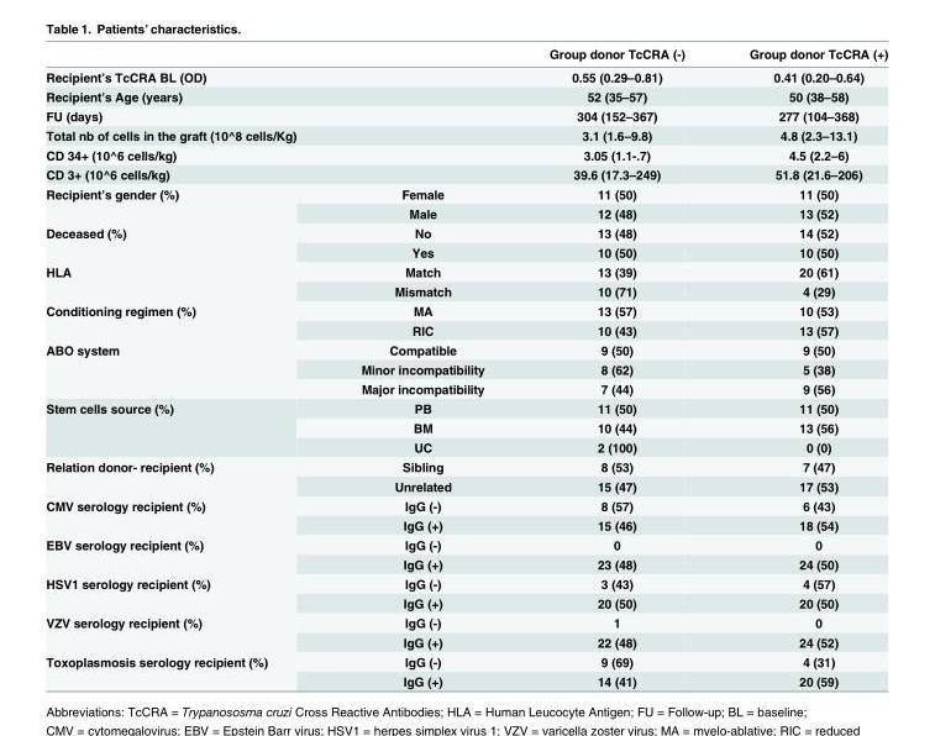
<table><thead><tr><td></td><td></td><td>Group donor TcCRA (-)</td><td>Group donor TcCRA (+)</td></tr></thead><tbody><tr><td>Recipient’s TcCRA BL (OD)</td><td></td><td>0.55 (0.29–0.81)</td><td>0.41 (0.20–0.64)</td></tr><tr><td>Recipient’s Age (years)</td><td></td><td>52 (35–57)</td><td>50 (38–58)</td></tr><tr><td>FU (days)</td><td></td><td>304 (152–367)</td><td>277 (104–368)</td></tr><tr><td>Total nb of cells in the graft (10^8 cells/Kg)</td><td></td><td>3.1 (1.6–9.8)</td><td>4.8 (2.3–13.1)</td></tr><tr><td>CD 34+ (10^6 cells/kg)</td><td></td><td>3.05 (1.1-.7)</td><td>4.5 (2.2–6)</td></tr><tr><td>CD 3+ (10^6 cells/kg)</td><td></td><td>39.6 (17.3–249)</td><td>51.8 (21.6–206)</td></tr><tr><td rowspan="2">Recipient’s gender (%)</td><td>Female</td><td>11 (50)</td><td>11 (50)</td></tr><tr><td>Male</td><td>12 (48)</td><td>13 (52)</td></tr><tr><td rowspan="2">Deceased (%)</td><td>No</td><td>13 (48)</td><td>14 (52)</td></tr><tr><td>Yes</td><td>10 (50)</td><td>10 (50)</td></tr><tr><td rowspan="2">HLA</td><td>Match</td><td>13 (39)</td><td>20 (61)</td></tr><tr><td>Mismatch</td><td>10 (71)</td><td>4 (29)</td></tr><tr><td rowspan="2">Conditioning regimen (%)</td><td>MA</td><td>13 (57)</td><td>10 (53)</td></tr><tr><td>RIC</td><td>10 (43)</td><td>13 (57)</td></tr><tr><td rowspan="3">ABO system</td><td>Compatible</td><td>9 (50)</td><td>9 (50)</td></tr><tr><td>Minor incompatibility</td><td>8 (62)</td><td>5 (38)</td></tr><tr><td>Major incompatibility</td><td>7 (44)</td><td>9 (56)</td></tr><tr><td rowspan="3">Stem cells source (%)</td><td>PB</td><td>11 (50)</td><td>11 (50)</td></tr><tr><td>BM</td><td>10 (44)</td><td>13 (56)</td></tr><tr><td>UC</td><td>2 (100)</td><td>0 (0)</td></tr><tr><td rowspan="2">Relation donor- recipient (%)</td><td>Sibling</td><td>8 (53)</td><td>7 (47)</td></tr><tr><td>Unrelated</td><td>15 (47)</td><td>17 (53)</td></tr><tr><td rowspan="2">CMV serology recipient (%)</td><td>IgG (-)</td><td>8 (57)</td><td>6 (43)</td></tr><tr><td>IgG (+)</td><td>15 (46)</td><td>18 (54)</td></tr><tr><td rowspan="2">EBV serology recipient (%)</td><td>IgG (-)</td><td>0</td><td>0</td></tr><tr><td>IgG (+)</td><td>23 (48)</td><td>24 (50)</td></tr><tr><td rowspan="2">HSV1 serology recipient (%)</td><td>IgG (-)</td><td>3 (43)</td><td>4 (57)</td></tr><tr><td>IgG (+)</td><td>20 (50)</td><td>20 (50)</td></tr><tr><td rowspan="2">VZV serology recipient (%)</td><td>IgG (-)</td><td>1</td><td>0</td></tr><tr><td>IgG (+)</td><td>22 (48)</td><td>24 (52)</td></tr><tr><td rowspan="2">Toxoplasmosis serology recipient (%)</td><td>IgG (-)</td><td>9 (69)</td><td>4 (31)</td></tr><tr><td>IgG (+)</td><td>14 (41)</td><td>20 (59)</td></tr></tbody></table>